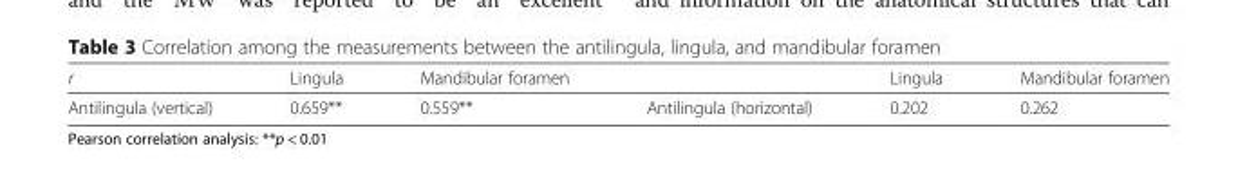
<table><thead><tr><td>r</td><td>Lingula</td><td>Mandibular foramen</td><td></td><td>Lingula</td><td>Mandibular foramen</td></tr></thead><tbody><tr><td>Antilingula (vertical)</td><td>0.659**</td><td>0.559**</td><td>Antilingula (horizontal)</td><td>0.202</td><td>0.262</td></tr></tbody></table>